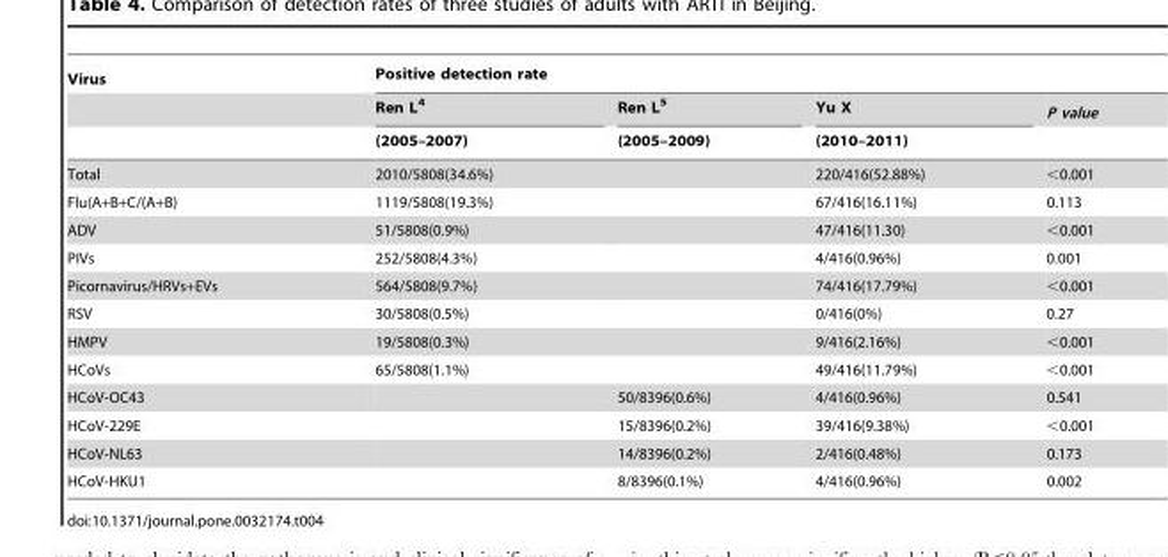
<table><thead><tr><td rowspan="3">Virus</td><td colspan="4">Positive detection rate</td></tr><tr><td rowspan="2">Ren L<sup>4</sup> (2005–2007)</td><td rowspan="2">Ren L<sup>5</sup> (2005–2009)</td><td rowspan="2">Yu X (2010–2011)</td><td rowspan="2">P value</td></tr><tr></tr></thead><tbody><tr><td>Total</td><td>2010/5808(34.6%)</td><td></td><td>220/416(52.88%)</td><td>&lt;0.001</td></tr><tr><td>Flu(A+B+C/(A+B)</td><td>1119/5808(19.3%)</td><td></td><td>67/416(16.11%)</td><td>0.113</td></tr><tr><td>ADV</td><td>51/5808(0.9%)</td><td></td><td>47/416(11.30)</td><td>&lt;0.001</td></tr><tr><td>PIVs</td><td>252/5808(4.3%)</td><td></td><td>4/416(0.96%)</td><td>0.001</td></tr><tr><td>Picornavirus/HRVs+EVs</td><td>564/5808(9.7%)</td><td></td><td>74/416(17.79%)</td><td>&lt;0.001</td></tr><tr><td>RSV</td><td>30/5808(0.5%)</td><td></td><td>0/416(0%)</td><td>0.27</td></tr><tr><td>HMPV</td><td>19/5808(0.3%)</td><td></td><td>9/416(2.16%)</td><td>&lt;0.001</td></tr><tr><td>HCoVs</td><td>65/5808(1.1%)</td><td></td><td>49/416(11.79%)</td><td>&lt;0.001</td></tr><tr><td>HCoV-OC43</td><td></td><td>50/8396(0.6%)</td><td>4/416(0.96%)</td><td>0.541</td></tr><tr><td>HCoV-229E</td><td></td><td>15/8396(0.2%)</td><td>39/416(9.38%)</td><td>&lt;0.001</td></tr><tr><td>HCoV-NL63</td><td></td><td>14/8396(0.2%)</td><td>2/416(0.48%)</td><td>0.173</td></tr><tr><td>HCoV-HKU1</td><td></td><td>8/8396(0.1%)</td><td>4/416(0.96%)</td><td>0.002</td></tr></tbody></table>